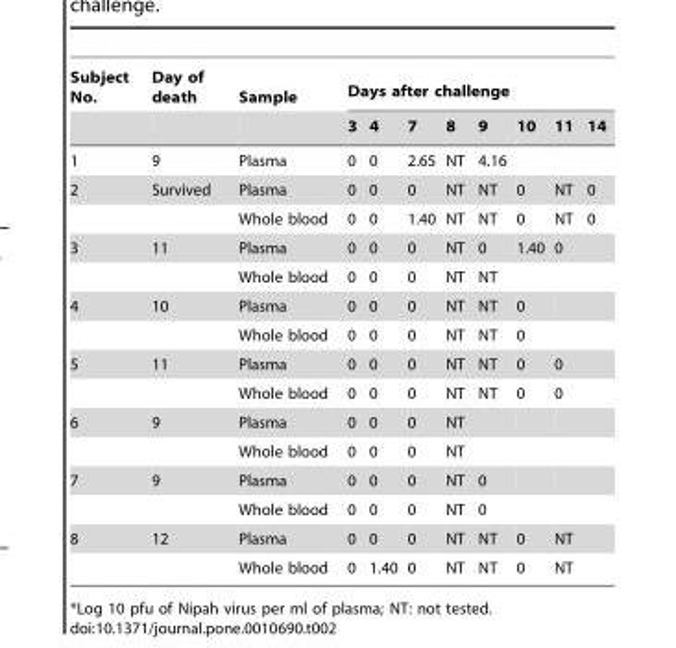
<table><thead><tr><td rowspan="2">Subject No.</td><td rowspan="2">Day of death</td><td rowspan="2">Sample</td><td colspan="8">Days after challenge</td></tr><tr><td>3</td><td>4</td><td>7</td><td>8</td><td>9</td><td>10</td><td>11</td><td>14</td></tr></thead><tbody><tr><td>1</td><td>9</td><td>Plasma</td><td>0</td><td>0</td><td>2.65</td><td>NT</td><td>4.16</td><td></td><td></td><td></td></tr><tr><td rowspan="2">2</td><td>Survived</td><td>Plasma</td><td>0</td><td>0</td><td>0</td><td>NT</td><td>NT</td><td>0</td><td>NT</td><td>0</td></tr><tr><td></td><td>Whole blood</td><td>0</td><td>0</td><td>1.40</td><td>NT</td><td>NT</td><td>0</td><td>NT</td><td>0</td></tr><tr><td rowspan="2">3</td><td>11</td><td>Plasma</td><td>0</td><td>0</td><td>0</td><td>NT</td><td>0</td><td>1.40</td><td>0</td><td></td></tr><tr><td></td><td>Whole blood</td><td>0</td><td>0</td><td>0</td><td>NT</td><td>NT</td><td></td><td></td><td></td></tr><tr><td rowspan="2">4</td><td>10</td><td>Plasma</td><td>0</td><td>0</td><td>0</td><td>NT</td><td>NT</td><td>0</td><td></td><td></td></tr><tr><td></td><td>Whole blood</td><td>0</td><td>0</td><td>0</td><td>NT</td><td>NT</td><td>0</td><td></td><td></td></tr><tr><td rowspan="2">5</td><td>11</td><td>Plasma</td><td>0</td><td>0</td><td>0</td><td>NT</td><td>NT</td><td>0</td><td>0</td><td></td></tr><tr><td></td><td>Whole blood</td><td>0</td><td>0</td><td>0</td><td>NT</td><td>NT</td><td>0</td><td>0</td><td></td></tr><tr><td rowspan="2">6</td><td>9</td><td>Plasma</td><td>0</td><td>0</td><td>0</td><td>NT</td><td></td><td></td><td></td><td></td></tr><tr><td></td><td>Whole blood</td><td>0</td><td>0</td><td>0</td><td>NT</td><td></td><td></td><td></td><td></td></tr><tr><td rowspan="2">7</td><td>9</td><td>Plasma</td><td>0</td><td>0</td><td>0</td><td>NT</td><td>0</td><td></td><td></td><td></td></tr><tr><td></td><td>Whole blood</td><td>0</td><td>0</td><td>0</td><td>NT</td><td>0</td><td></td><td></td><td></td></tr><tr><td rowspan="2">8</td><td>12</td><td>Plasma</td><td>0</td><td>0</td><td>0</td><td>NT</td><td>NT</td><td>0</td><td>NT</td><td></td></tr><tr><td></td><td>Whole blood</td><td>0</td><td>1.40</td><td>0</td><td>NT</td><td>NT</td><td>0</td><td>NT</td><td></td></tr></tbody></table>